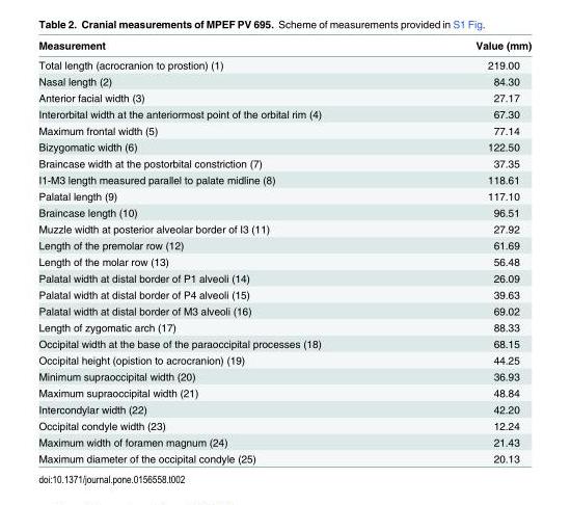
<table><thead><tr><td>Measurement</td><td>Value (mm)</td></tr></thead><tbody><tr><td>Total length (acrocranion to prostion) (1)</td><td>219.00</td></tr><tr><td>Nasal length (2)</td><td>84.30</td></tr><tr><td>Anterior facial width (3)</td><td>27.17</td></tr><tr><td>Interorbital width at the anteriormost point of the orbital rim (4)</td><td>67.30</td></tr><tr><td>Maximum frontal width (5)</td><td>77.14</td></tr><tr><td>Bizygomatic width (6)</td><td>122.50</td></tr><tr><td>Braincase width at the postorbital constriction (7)</td><td>37.35</td></tr><tr><td>I1-M3 length measured parallel to palate midline (8)</td><td>118.61</td></tr><tr><td>Palatal length (9)</td><td>117.10</td></tr><tr><td>Braincase length (10)</td><td>96.51</td></tr><tr><td>Muzzle width at posterior alveolar border of I3 (11)</td><td>27.92</td></tr><tr><td>Length of the premolar row (12)</td><td>61.69</td></tr><tr><td>Length of the molar row (13)</td><td>56.48</td></tr><tr><td>Palatal width at distal border of P1 alveoli (14)</td><td>26.09</td></tr><tr><td>Palatal width at distal border of P4 alveoli (15)</td><td>39.63</td></tr><tr><td>Palatal width at distal border of M3 alveoli (16)</td><td>69.02</td></tr><tr><td>Length of zygomatic arch (17)</td><td>88.33</td></tr><tr><td>Occipital width at the base of the paraoccipital processes (18)</td><td>68.15</td></tr><tr><td>Occipital height (opistion to acrocranion) (19)</td><td>44.25</td></tr><tr><td>Minimum supraoccipital width (20)</td><td>36.93</td></tr><tr><td>Maximum supraoccipital width (21)</td><td>48.84</td></tr><tr><td>Intercondylar width (22)</td><td>42.20</td></tr><tr><td>Occipital condyle width (23)</td><td>12.24</td></tr><tr><td>Maximum width of foramen magnum (24)</td><td>21.43</td></tr><tr><td>Maximum diameter of the occipital condyle (25)</td><td>20.13</td></tr></tbody></table>